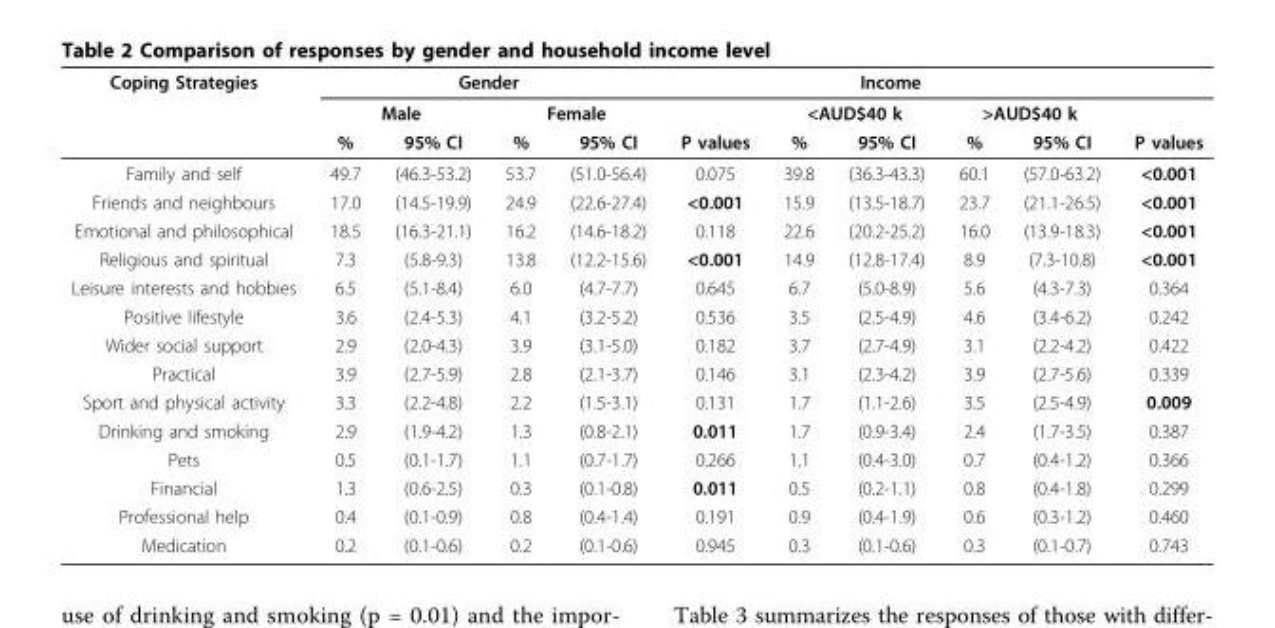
<table><thead><tr><td rowspan="3">Coping Strategies</td><td colspan="4">Gender</td><td colspan="5">Income</td><td rowspan="3">P values</td></tr><tr><td colspan="2">Male</td><td colspan="2">Female</td><td rowspan="2">P values</td><td colspan="2">&lt;AUD$40 k</td><td colspan="2">&gt;AUD$40 k</td></tr><tr><td>%</td><td>95% CI</td><td>%</td><td>95% CI</td><td>%</td><td>95% CI</td><td>%</td><td>95% CI</td></tr></thead><tbody><tr><td>Family and self</td><td>49.7</td><td>(46.3-53.2)</td><td>53.7</td><td>(51.0-56.4)</td><td>0.075</td><td>39.8</td><td>(36.3-43.3)</td><td>60.1</td><td>(57.0-63.2)</td><td>&lt;0.001</td></tr><tr><td>Friends and neighbours</td><td>17.0</td><td>(14.5-19.9)</td><td>24.9</td><td>(22.6-27.4)</td><td>&lt;0.001</td><td>15.9</td><td>(13.5-18.7)</td><td>23.7</td><td>(21.1-26.5)</td><td>&lt;0.001</td></tr><tr><td>Emotional and philosophical</td><td>18.5</td><td>(16.3-21.1)</td><td>16.2</td><td>(14.6-18.2)</td><td>0.118</td><td>22.6</td><td>(20.2-25.2)</td><td>16.0</td><td>(13.9-18.3)</td><td>&lt;0.001</td></tr><tr><td>Religious and spiritual</td><td>7.3</td><td>(5.8-9.3)</td><td>13.8</td><td>(12.2-15.6)</td><td>&lt;0.001</td><td>14.9</td><td>(12.8-17.4)</td><td>8.9</td><td>(7.3-10.8)</td><td>&lt;0.001</td></tr><tr><td>Leisure interests and hobbies</td><td>6.5</td><td>(5.1-8.4)</td><td>6.0</td><td>(4.7-7.7)</td><td>0.645</td><td>6.7</td><td>(5.0-8.9)</td><td>5.6</td><td>(4.3-7.3)</td><td>0.364</td></tr><tr><td>Positive lifestyle</td><td>3.6</td><td>(2.4-5.3)</td><td>4.1</td><td>(3.2-5.2)</td><td>0.536</td><td>3.5</td><td>(2.5-4.9)</td><td>4.6</td><td>(3.4-6.2)</td><td>0.242</td></tr><tr><td>Wider social support</td><td>2.9</td><td>(2.0-4.3)</td><td>3.9</td><td>(3.1-5.0)</td><td>0.182</td><td>3.7</td><td>(2.7-4.9)</td><td>3.1</td><td>(2.2-4.2)</td><td>0.422</td></tr><tr><td>Practical</td><td>3.9</td><td>(2.7-5.9)</td><td>2.8</td><td>(2.1-3.7)</td><td>0.146</td><td>3.1</td><td>(2.3-4.2)</td><td>3.9</td><td>(2.7-5.6)</td><td>0.339</td></tr><tr><td>Sport and physical activity</td><td>3.3</td><td>(2.2-4.8)</td><td>2.2</td><td>(1.5-3.1)</td><td>0.131</td><td>1.7</td><td>(1.1-2.6)</td><td>3.5</td><td>(2.5-4.9)</td><td>0.009</td></tr><tr><td>Drinking and smoking</td><td>2.9</td><td>(1.9-4.2)</td><td>1.3</td><td>(0.8-2.1)</td><td>0.011</td><td>1.7</td><td>(0.9-3.4)</td><td>2.4</td><td>(1.7-3.5)</td><td>0.387</td></tr><tr><td>Pets</td><td>0.5</td><td>(0.1-1.7)</td><td>1.1</td><td>(0.7-1.7)</td><td>0.266</td><td>1.1</td><td>(0.4-3.0)</td><td>0.7</td><td>(0.4-1.2)</td><td>0.366</td></tr><tr><td>Financial</td><td>1.3</td><td>(0.6-2.5)</td><td>0.3</td><td>(0.1-0.8)</td><td>0.011</td><td>0.5</td><td>(0.2-1.1)</td><td>0.8</td><td>(0.4-1.8)</td><td>0.299</td></tr><tr><td>Professional help</td><td>0.4</td><td>(0.1-0.9)</td><td>0.8</td><td>(0.4-1.4)</td><td>0.191</td><td>0.9</td><td>(0.4-1.9)</td><td>0.6</td><td>(0.3-1.2)</td><td>0.460</td></tr><tr><td>Medication</td><td>0.2</td><td>(0.1-0.6)</td><td>0.2</td><td>(0.1-0.6)</td><td>0.945</td><td>0.3</td><td>(0.1-0.6)</td><td>0.3</td><td>(0.1-0.7)</td><td>0.743</td></tr></tbody></table>